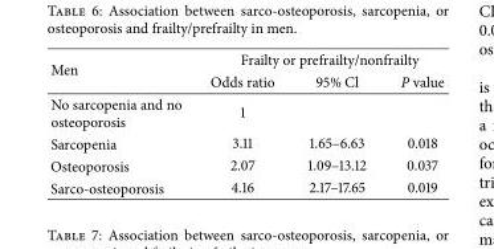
<table><thead><tr><td rowspan="2">Men</td><td colspan="3">Frailty or prefrailty/nonfrailty</td></tr><tr><td>Odds ratio</td><td>95% Cl</td><td>P value</td></tr></thead><tbody><tr><td>No sarcopenia and no osteoporosis</td><td>1</td><td></td><td></td></tr><tr><td>Sarcopenia</td><td>3.11</td><td>1.65–6.63</td><td>0.018</td></tr><tr><td>Osteoporosis</td><td>2.07</td><td>1.09–13.12</td><td>0.037</td></tr><tr><td>Sarco-osteoporosis</td><td>4.16</td><td>2.17–17.65</td><td>0.019</td></tr></tbody></table>